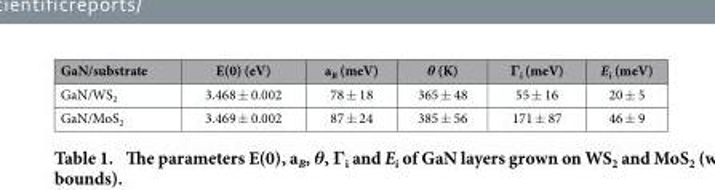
<table><thead><tr><td>GaN/substrate</td><td>E(0) (eV)</td><td>a<sub>B</sub> (meV)</td><td>θ (K)</td><td>Γ<sub>i</sub> (meV)</td><td>E<sub>i</sub> (meV)</td></tr></thead><tbody><tr><td>GaN/WS<sub>2</sub></td><td>3.468 ± 0.002</td><td>78 ± 18</td><td>365 ± 48</td><td>55 ± 16</td><td>20 ± 5</td></tr><tr><td>GaN/MoS<sub>2</sub></td><td>3.469 ± 0.002</td><td>87 ± 24</td><td>385 ± 56</td><td>171 ± 87</td><td>46 ± 9</td></tr></tbody></table>